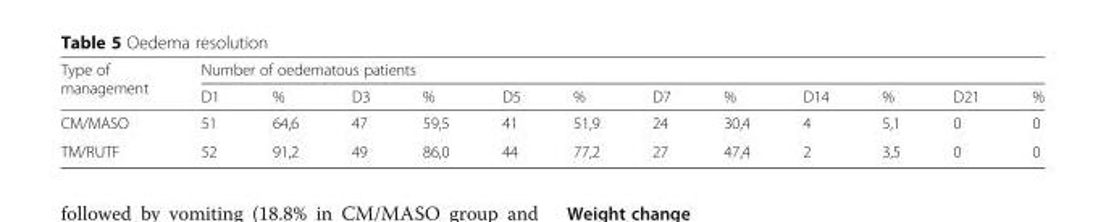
<table><thead><tr><td rowspan="2">Type of management</td><td colspan="12">Number of oedematous patients</td></tr><tr><td>D1</td><td>%</td><td>D3</td><td>%</td><td>D5</td><td>%</td><td>D7</td><td>%</td><td>D14</td><td>%</td><td>D21</td><td>%</td></tr></thead><tbody><tr><td>CM/MASO</td><td>51</td><td>64,6</td><td>47</td><td>59,5</td><td>41</td><td>51,9</td><td>24</td><td>30,4</td><td>4</td><td>5,1</td><td>0</td><td>0</td></tr><tr><td>TM/RUTF</td><td>52</td><td>91,2</td><td>49</td><td>86,0</td><td>44</td><td>77,2</td><td>27</td><td>47,4</td><td>2</td><td>3,5</td><td>0</td><td>0</td></tr></tbody></table>